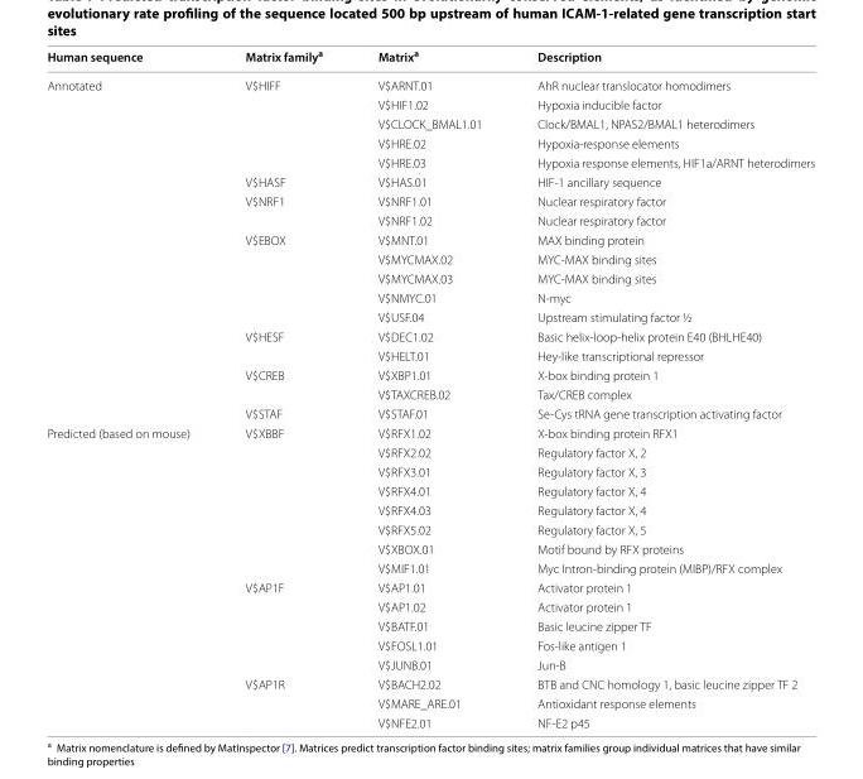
<table><thead><tr><td>Human sequence</td><td>Matrix family<sup>a</sup></td><td>Matrix<sup>a</sup></td><td>Description</td></tr></thead><tbody><tr><td rowspan="18">Annotated</td><td rowspan="5">V$HIFF</td><td>V$ARNT.01</td><td>AhR nuclear translocator homodimers</td></tr><tr><td>V$HIF1.02</td><td>Hypoxia inducible factor</td></tr><tr><td>V$CLOCK_BMAL1.01</td><td>Clock/BMAL1, NPAS2/BMAL1 heterodimers</td></tr><tr><td>V$HRE.02</td><td>Hypoxia-response elements</td></tr><tr><td>V$HRE.03</td><td>Hypoxia response elements, HIF1a/ARNT heterodimers</td></tr><tr><td>V$HASF</td><td>V$HAS.01</td><td>HIF-1 ancillary sequence</td></tr><tr><td rowspan="2">V$NRF1</td><td>V$NRF1.01</td><td>Nuclear respiratory factor</td></tr><tr><td>V$NRF1.02</td><td>Nuclear respiratory factor</td></tr><tr><td rowspan="5">V$EBOX</td><td>V$MNT.01</td><td>MAX binding protein</td></tr><tr><td>V$MYCMAX.02</td><td>MYC-MAX binding sites</td></tr><tr><td>V$MYCMAX.03</td><td>MYC-MAX binding sites</td></tr><tr><td>V$NMYC.01</td><td>N-myc</td></tr><tr><td>V$USF.04</td><td>Upstream stimulating factor ½</td></tr><tr><td rowspan="2">V$HESF</td><td>V$DEC1.02</td><td>Basic helix-loop-helix protein E40 (BHLHE40)</td></tr><tr><td>V$HELT.01</td><td>Hey-like transcriptional repressor</td></tr><tr><td rowspan="2">V$CREB</td><td>V$XBP1.01</td><td>X-box binding protein 1</td></tr><tr><td>V$TAXCREB.02</td><td>Tax/CREB complex</td></tr><tr><td>V$STAF</td><td>V$STAF.01</td><td>Se-Cys tRNA gene transcription activating factor</td></tr><tr><td rowspan="16">Predicted (based on mouse)</td><td rowspan="7">V$XBBF</td><td>V$RFX1.02</td><td>X-box binding protein RFX1</td></tr><tr><td>V$RFX2.02</td><td>Regulatory factor X, 2</td></tr><tr><td>V$RFX3.01</td><td>Regulatory factor X, 3</td></tr><tr><td>V$RFX4.01</td><td>Regulatory factor X, 4</td></tr><tr><td>V$RFX4.03</td><td>Regulatory factor X, 4</td></tr><tr><td>V$RFX5.02</td><td>Regulatory factor X, 5</td></tr><tr><td>V$XBOX.01</td><td>Motif bound by RFX proteins</td></tr><tr><td></td><td>V$MIF1.01</td><td>Myc Intron-binding protein (MIBP)/RFX complex</td></tr><tr><td rowspan="5">V$AP1F</td><td>V$AP1.01</td><td>Activator protein 1</td></tr><tr><td>V$AP1.02</td><td>Activator protein 1</td></tr><tr><td>V$BATF.01</td><td>Basic leucine zipper TF</td></tr><tr><td>V$FOSL1.01</td><td>Fos-like antigen 1</td></tr><tr><td>V$JUNB.01</td><td>Jun-B</td></tr><tr><td rowspan="3">V$AP1R</td><td>V$BACH2.02</td><td>BTB and CNC homology 1, basic leucine zipper TF 2</td></tr><tr><td>V$MARE_ARE.01</td><td>Antioxidant response elements</td></tr><tr><td>V$NFE2.01</td><td>NF-E2 p45</td></tr></tbody></table>